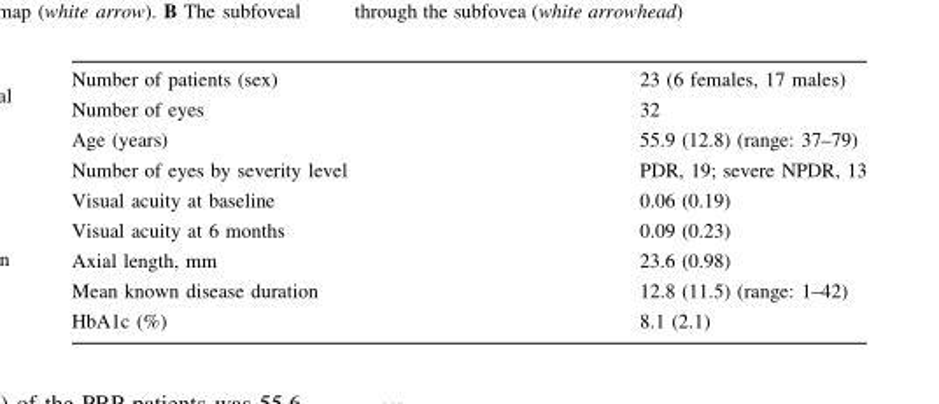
<table><tbody><tr><td>Number of patients (sex)</td><td>23 (6 females, 17 males)</td></tr><tr><td>Number of eyes</td><td>32</td></tr><tr><td>Age (years)</td><td>55.9 (12.8) (range: 37–79)</td></tr><tr><td>Number of eyes by severity level</td><td>PDR, 19; severe NPDR, 13</td></tr><tr><td>Visual acuity at baseline</td><td>0.06 (0.19)</td></tr><tr><td>Visual acuity at 6 months</td><td>0.09 (0.23)</td></tr><tr><td>Axial length, mm</td><td>23.6 (0.98)</td></tr><tr><td>Mean known disease duration</td><td>12.8 (11.5) (range: 1–42)</td></tr><tr><td>HbA1c (%)</td><td>8.1 (2.1)</td></tr></tbody></table>